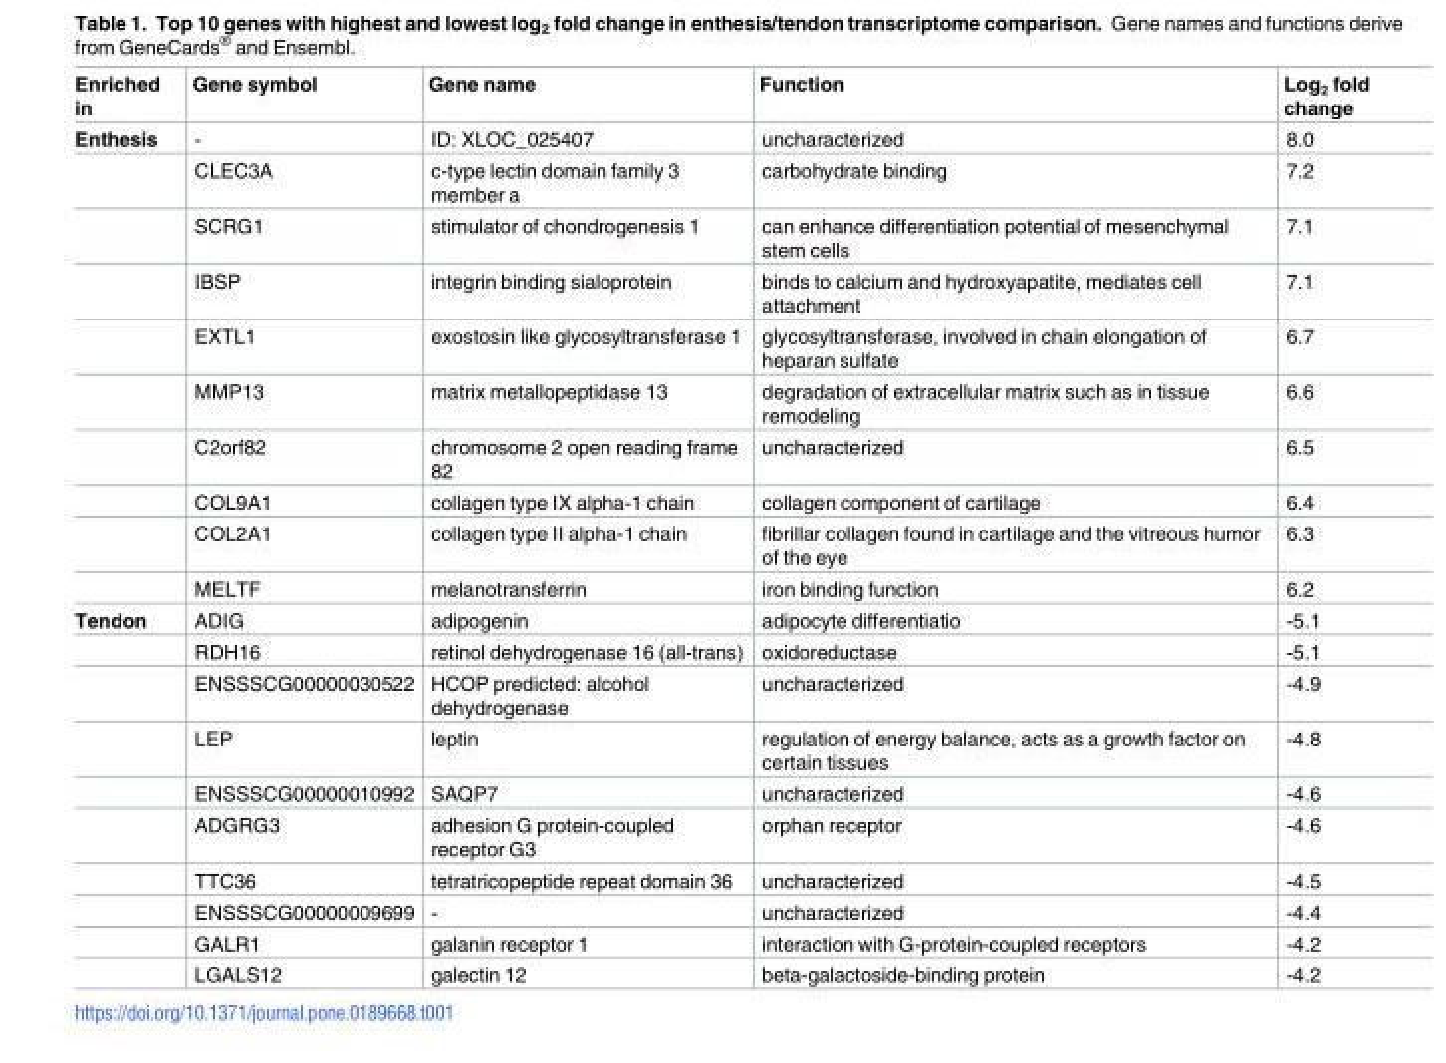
<table><thead><tr><td>Enriched in</td><td>Gene symbol</td><td>Gene name</td><td>Function</td><td>Log<sub>2</sub> fold change</td></tr></thead><tbody><tr><td rowspan="10">Enthesis</td><td>-</td><td>ID: XLOC_025407</td><td>uncharacterized</td><td>8.0</td></tr><tr><td>CLEC3A</td><td>c-type lectin domain family 3 member a</td><td>carbohydrate binding</td><td>7.2</td></tr><tr><td>SCRG1</td><td>stimulator of chondrogenesis 1</td><td>can enhance differentiation potential of mesenchymal stem cells</td><td>7.1</td></tr><tr><td>IBSP</td><td>integrin binding sialoprotein</td><td>binds to calcium and hydroxyapatite, mediates cell attachment</td><td>7.1</td></tr><tr><td>EXTL1</td><td>exostosin like glycosyltransferase 1</td><td>glycosyltransferase, involved in chain elongation of heparan sulfate</td><td>6.7</td></tr><tr><td>MMP13</td><td>matrix metallopeptidase 13</td><td>degradation of extracellular matrix such as in tissue remodeling</td><td>6.6</td></tr><tr><td>C2orf82</td><td>chromosome 2 open reading frame 82</td><td>uncharacterized</td><td>6.5</td></tr><tr><td>COL9A1</td><td>collagen type IX alpha-1 chain</td><td>collagen component of cartilage</td><td>6.4</td></tr><tr><td>COL2A1</td><td>collagen type II alpha-1 chain</td><td>fibrillar collagen found in cartilage and the vitreous humor of the eye</td><td>6.3</td></tr><tr><td>MELTF</td><td>melanotransferrin</td><td>iron binding function</td><td>6.2</td></tr><tr><td rowspan="10">Tendon</td><td>ADIG</td><td>adipogenin</td><td>adipocyte differentiatio</td><td>-5.1</td></tr><tr><td>RDH16</td><td>retinol dehydrogenase 16 (all-trans)</td><td>oxidoreductase</td><td>-5.1</td></tr><tr><td>ENSSSCG00000030522</td><td>HCOP predicted: alcohol dehydrogenase</td><td>uncharacterized</td><td>-4.9</td></tr><tr><td>LEP</td><td>leptin</td><td>regulation of energy balance, acts as a growth factor on certain tissues</td><td>-4.8</td></tr><tr><td>ENSSSCG00000010992</td><td>SAQP7</td><td>uncharacterized</td><td>-4.6</td></tr><tr><td>ADGRG3</td><td>adhesion G protein-coupled receptor G3</td><td>orphan receptor</td><td>-4.6</td></tr><tr><td>TTC36</td><td>tetratricopeptide repeat domain 36</td><td>uncharacterized</td><td>-4.5</td></tr><tr><td>ENSSSCG00000009699</td><td>-</td><td>uncharacterized</td><td>-4.4</td></tr><tr><td>GALR1</td><td>galanin receptor 1</td><td>interaction with G-protein-coupled receptors</td><td>-4.2</td></tr><tr><td>LGALS12</td><td>galectin 12</td><td>beta-galactoside-binding protein</td><td>-4.2</td></tr></tbody></table>